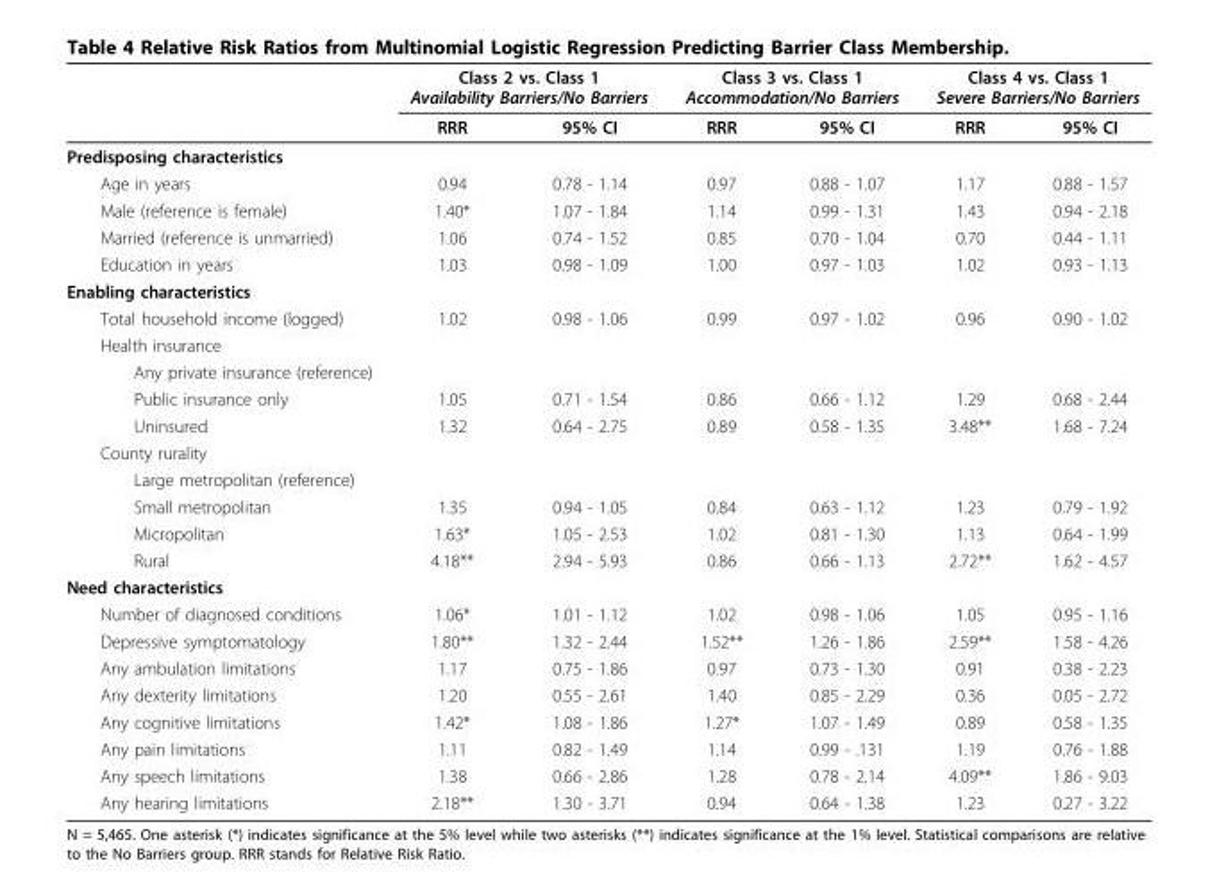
<table><thead><tr><td rowspan="2"></td><td colspan="2">Class 2 vs. Class 1 Availability Barriers/No Barriers</td><td colspan="2">Class 3 vs. Class 1 Accommodation/No Barriers</td><td colspan="2">Class 4 vs. Class 1 Severe Barriers/No Barriers</td></tr><tr><td>RRR</td><td>95% CI</td><td>RRR</td><td>95% CI</td><td>RRR</td><td>95% CI</td></tr></thead><tbody><tr><td colspan="7">Predisposing characteristics</td></tr><tr><td>Age in years</td><td>0.94</td><td>0.78 - 1.14</td><td>0.97</td><td>0.88 - 1.07</td><td>1.17</td><td>0.88 - 1.57</td></tr><tr><td>Male (reference is female)</td><td>1.40*</td><td>1.07 - 1.84</td><td>1.14</td><td>0.99 - 1.31</td><td>1.43</td><td>0.94 - 2.18</td></tr><tr><td>Married (reference is unmarried)</td><td>1.06</td><td>0.74 - 1.52</td><td>0.85</td><td>0.70 - 1.04</td><td>0.70</td><td>0.44 - 1.11</td></tr><tr><td>Education in years</td><td>1.03</td><td>0.98 - 1.09</td><td>1.00</td><td>0.97 - 1.03</td><td>1.02</td><td>0.93 - 1.13</td></tr><tr><td colspan="7">Enabling characteristics</td></tr><tr><td>Total household income (logged)</td><td>1.02</td><td>0.98 - 1.06</td><td>0.99</td><td>0.97 - 1.02</td><td>0.96</td><td>0.90 - 1.02</td></tr><tr><td colspan="7">Health insurance</td></tr><tr><td colspan="7">Any private insurance (reference)</td></tr><tr><td>Public insurance only</td><td>1.05</td><td>0.71 - 1.54</td><td>0.86</td><td>0.66 - 1.12</td><td>1.29</td><td>0.68 - 2.44</td></tr><tr><td>Uninsured</td><td>1.32</td><td>0.64 - 2.75</td><td>0.89</td><td>0.58 - 1.35</td><td>3.48**</td><td>1.68 - 7.24</td></tr><tr><td colspan="7">County rurality</td></tr><tr><td colspan="7">Large metropolitan (reference)</td></tr><tr><td>Small metropolitan</td><td>1.35</td><td>0.94 - 1.05</td><td>0.84</td><td>0.63 - 1.12</td><td>1.23</td><td>0.79 - 1.92</td></tr><tr><td>Micropolitan</td><td>1.63*</td><td>1.05 - 2.53</td><td>1.02</td><td>0.81 - 1.30</td><td>1.13</td><td>0.64 - 1.99</td></tr><tr><td>Rural</td><td>4.18**</td><td>2.94 - 5.93</td><td>0.86</td><td>0.66 - 1.13</td><td>2.72**</td><td>1.62 - 4.57</td></tr><tr><td colspan="7">Need characteristics</td></tr><tr><td>Number of diagnosed conditions</td><td>1.06*</td><td>1.01 - 1.12</td><td>1.02</td><td>0.98 - 1.06</td><td>1.05</td><td>0.95 - 1.16</td></tr><tr><td>Depressive symptomatology</td><td>1.80**</td><td>1.32 - 2.44</td><td>1.52**</td><td>1.26 - 1.86</td><td>2.59**</td><td>1.58 - 4.26</td></tr><tr><td>Any ambulation limitations</td><td>1.17</td><td>0.75 - 1.86</td><td>0.97</td><td>0.73 - 1.30</td><td>0.91</td><td>0.38 - 2.23</td></tr><tr><td>Any dexterity limitations</td><td>1.20</td><td>0.55 - 2.61</td><td>1.40</td><td>0.85 - 2.29</td><td>0.36</td><td>0.05 - 2.72</td></tr><tr><td>Any cognitive limitations</td><td>1.42*</td><td>1.08 - 1.86</td><td>1.27*</td><td>1.07 - 1.49</td><td>0.89</td><td>0.58 - 1.35</td></tr><tr><td>Any pain limitations</td><td>1.11</td><td>0.82 - 1.49</td><td>1.14</td><td>0.99 - .131</td><td>1.19</td><td>0.76 - 1.88</td></tr><tr><td>Any speech limitations</td><td>1.38</td><td>0.66 - 2.86</td><td>1.28</td><td>0.78 - 2.14</td><td>4.09**</td><td>1.86 - 9.03</td></tr><tr><td>Any hearing limitations</td><td>2.18**</td><td>1.30 - 3.71</td><td>0.94</td><td>0.64 - 1.38</td><td>1.23</td><td>0.27 - 3.22</td></tr></tbody></table>